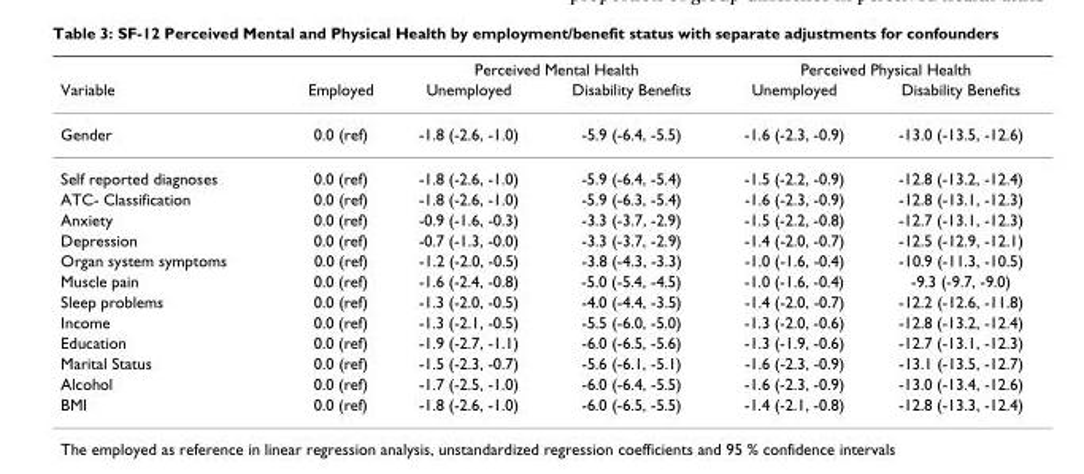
<table><thead><tr><td rowspan="2">Variable</td><td rowspan="2">Employed</td><td colspan="2">Perceived Mental Health</td><td colspan="2">Perceived Physical Health</td></tr><tr><td>Unemployed</td><td>Disability Benefits</td><td>Unemployed</td><td>Disability Benefits</td></tr></thead><tbody><tr><td>Gender</td><td>0.0 (ref)</td><td>-1.8 (-2.6, -1.0)</td><td>-5.9 (-6.4, -5.5)</td><td>-1.6 (-2.3, -0.9)</td><td>-13.0 (-13.5, -12.6)</td></tr><tr><td>Self reported diagnoses</td><td>0.0 (ref)</td><td>-1.8 (-2.6, -1.0)</td><td>-5.9 (-6.4, -5.4)</td><td>-1.5 (-2.2, -0.9)</td><td>-12.8 (-13.2, -12.4)</td></tr><tr><td>ATC- Classification</td><td>0.0 (ref)</td><td>-1.8 (-2.6, -1.0)</td><td>-5.9 (-6.3, -5.4)</td><td>-1.6 (-2.3, -0.9)</td><td>-12.8 (-13.1, -12.3)</td></tr><tr><td>Anxiety</td><td>0.0 (ref)</td><td>-0.9 (-1.6, -0.3)</td><td>-3.3 (-3.7, -2.9)</td><td>-1.5 (-2.2, -0.8)</td><td>-12.7 (-13.1, -12.3)</td></tr><tr><td>Depression</td><td>0.0 (ref)</td><td>-0.7 (-1.3, -0.0)</td><td>-3.3 (-3.7, -2.9)</td><td>-1.4 (-2.0, -0.7)</td><td>-12.5 (-12.9, -12.1)</td></tr><tr><td>Organ system symptoms</td><td>0.0 (ref)</td><td>-1.2 (-2.0, -0.5)</td><td>-3.8 (-4.3, -3.3)</td><td>-1.0 (-1.6, -0.4)</td><td>-10.9 (-11.3, -10.5)</td></tr><tr><td>Muscle pain</td><td>0.0 (ref)</td><td>-1.6 (-2.4, -0.8)</td><td>-5.0 (-5.4, -4.5)</td><td>-1.0 (-1.6, -0.4)</td><td>-9.3 (-9.7, -9.0)</td></tr><tr><td>Sleep problems</td><td>0.0 (ref)</td><td>-1.3 (-2.0, -0.5)</td><td>-4.0 (-4.4, -3.5)</td><td>-1.4 (-2.0, -0.7)</td><td>-12.2 (-12.6, -11.8)</td></tr><tr><td>Income</td><td>0.0 (ref)</td><td>-1.3 (-2.1, -0.5)</td><td>-5.5 (-6.0, -5.0)</td><td>-1.3 (-2.0, -0.6)</td><td>-12.8 (-13.2, -12.4)</td></tr><tr><td>Education</td><td>0.0 (ref)</td><td>-1.9 (-2.7, -1.1)</td><td>-6.0 (-6.5, -5.6)</td><td>-1.3 (-1.9, -0.6)</td><td>-12.7 (-13.1, -12.3)</td></tr><tr><td>Marital Status</td><td>0.0 (ref)</td><td>-1.5 (-2.3, -0.7)</td><td>-5.6 (-6.1, -5.1)</td><td>-1.6 (-2.3, -0.9)</td><td>-13.1 (-13.5, -12.7)</td></tr><tr><td>Alcohol</td><td>0.0 (ref)</td><td>-1.7 (-2.5, -1.0)</td><td>-6.0 (-6.4, -5.5)</td><td>-1.6 (-2.3, -0.9)</td><td>-13.0 (-13.4, -12.6)</td></tr><tr><td>BMI</td><td>0.0 (ref)</td><td>-1.8 (-2.6, -1.0)</td><td>-6.0 (-6.5, -5.5)</td><td>-1.4 (-2.1, -0.8)</td><td>-12.8 (-13.3, -12.4)</td></tr></tbody></table>